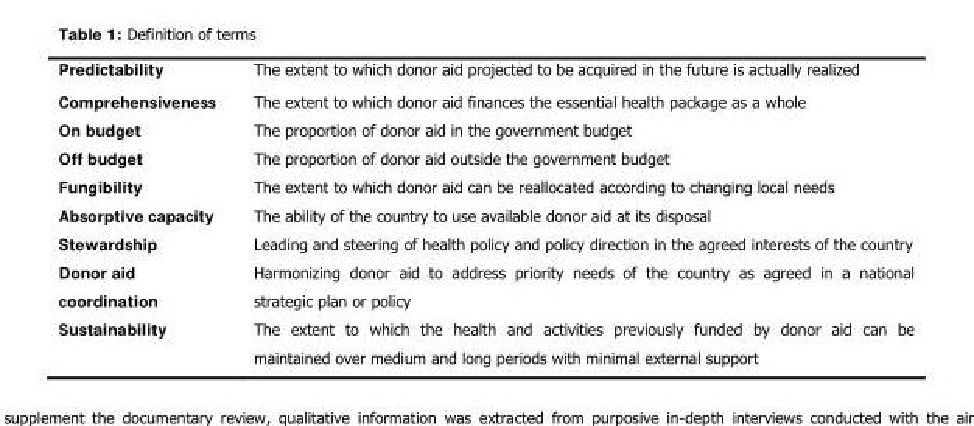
<table><tbody><tr><td>Predictability</td><td>The extent to which donor aid projected to be acquired in the future is actually realized</td></tr><tr><td>Comprehensiveness</td><td>The extent to which donor aid finances the essential health package as a whole</td></tr><tr><td>On budget</td><td>The proportion of donor aid in the government budget</td></tr><tr><td>Off budget</td><td>The proportion of donor aid outside the government budget</td></tr><tr><td>Fungibility</td><td>The extent to which donor aid can be reallocated according to changing local needs</td></tr><tr><td>Absorptive capacity</td><td>The ability of the country to use available donor aid at its disposal</td></tr><tr><td>Stewardship</td><td>Leading and steering of health policy and policy direction in the agreed interests of the country</td></tr><tr><td>Donor aid coordination</td><td>Harmonizing donor aid to address priority needs of the country as agreed in a national strategic plan or policy</td></tr><tr><td>Sustainability</td><td>The extent to which the health and activities previously funded by donor aid can be maintained over medium and long periods with minimal external support</td></tr></tbody></table>